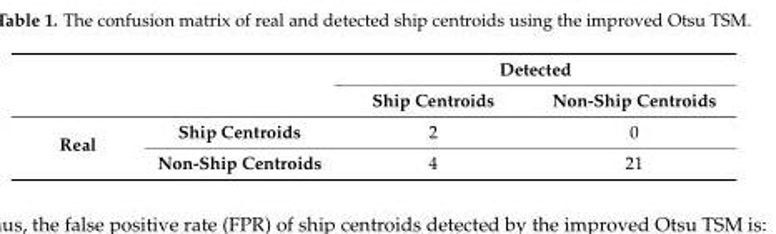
<table><thead><tr><td rowspan="2"></td><td rowspan="2"></td><td colspan="2">Detected</td></tr><tr><td>Ship Centroids</td><td>Non-Ship Centroids</td></tr></thead><tbody><tr><td rowspan="2">Real</td><td>Ship Centroids</td><td>2</td><td>0</td></tr><tr><td>Non-Ship Centroids</td><td>4</td><td>21</td></tr></tbody></table>